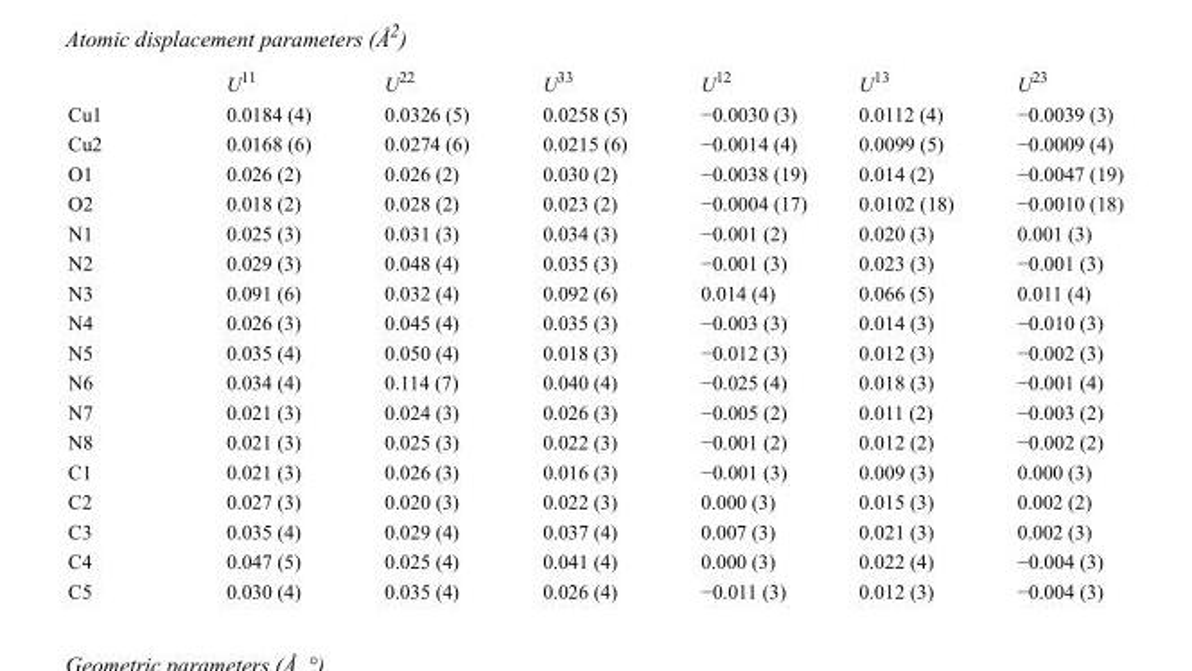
<table><thead><tr><td></td><td>U<sup>11</sup></td><td>U<sup>22</sup></td><td>U<sup>33</sup></td><td>U<sup>12</sup></td><td>U<sup>13</sup></td><td>U<sup>23</sup></td></tr></thead><tbody><tr><td>Cu1</td><td>0.0184 (4)</td><td>0.0326 (5)</td><td>0.0258 (5)</td><td>−0.0030 (3)</td><td>0.0112 (4)</td><td>−0.0039 (3)</td></tr><tr><td>Cu2</td><td>0.0168 (6)</td><td>0.0274 (6)</td><td>0.0215 (6)</td><td>−0.0014 (4)</td><td>0.0099 (5)</td><td>−0.0009 (4)</td></tr><tr><td>O1</td><td>0.026 (2)</td><td>0.026 (2)</td><td>0.030 (2)</td><td>−0.0038 (19)</td><td>0.014 (2)</td><td>−0.0047 (19)</td></tr><tr><td>O2</td><td>0.018 (2)</td><td>0.028 (2)</td><td>0.023 (2)</td><td>−0.0004 (17)</td><td>0.0102 (18)</td><td>−0.0010 (18)</td></tr><tr><td>N1</td><td>0.025 (3)</td><td>0.031 (3)</td><td>0.034 (3)</td><td>−0.001 (2)</td><td>0.020 (3)</td><td>0.001 (3)</td></tr><tr><td>N2</td><td>0.029 (3)</td><td>0.048 (4)</td><td>0.035 (3)</td><td>−0.001 (3)</td><td>0.023 (3)</td><td>−0.001 (3)</td></tr><tr><td>N3</td><td>0.091 (6)</td><td>0.032 (4)</td><td>0.092 (6)</td><td>0.014 (4)</td><td>0.066 (5)</td><td>0.011 (4)</td></tr><tr><td>N4</td><td>0.026 (3)</td><td>0.045 (4)</td><td>0.035 (3)</td><td>−0.003 (3)</td><td>0.014 (3)</td><td>−0.010 (3)</td></tr><tr><td>N5</td><td>0.035 (4)</td><td>0.050 (4)</td><td>0.018 (3)</td><td>−0.012 (3)</td><td>0.012 (3)</td><td>−0.002 (3)</td></tr><tr><td>N6</td><td>0.034 (4)</td><td>0.114 (7)</td><td>0.040 (4)</td><td>−0.025 (4)</td><td>0.018 (3)</td><td>−0.001 (4)</td></tr><tr><td>N7</td><td>0.021 (3)</td><td>0.024 (3)</td><td>0.026 (3)</td><td>−0.005 (2)</td><td>0.011 (2)</td><td>−0.003 (2)</td></tr><tr><td>N8</td><td>0.021 (3)</td><td>0.025 (3)</td><td>0.022 (3)</td><td>−0.001 (2)</td><td>0.012 (2)</td><td>−0.002 (2)</td></tr><tr><td>C1</td><td>0.021 (3)</td><td>0.026 (3)</td><td>0.016 (3)</td><td>−0.001 (3)</td><td>0.009 (3)</td><td>0.000 (3)</td></tr><tr><td>C2</td><td>0.027 (3)</td><td>0.020 (3)</td><td>0.022 (3)</td><td>0.000 (3)</td><td>0.015 (3)</td><td>0.002 (2)</td></tr><tr><td>C3</td><td>0.035 (4)</td><td>0.029 (4)</td><td>0.037 (4)</td><td>0.007 (3)</td><td>0.021 (3)</td><td>0.002 (3)</td></tr><tr><td>C4</td><td>0.047 (5)</td><td>0.025 (4)</td><td>0.041 (4)</td><td>0.000 (3)</td><td>0.022 (4)</td><td>−0.004 (3)</td></tr><tr><td>C5</td><td>0.030 (4)</td><td>0.035 (4)</td><td>0.026 (4)</td><td>−0.011 (3)</td><td>0.012 (3)</td><td>−0.004 (3)</td></tr></tbody></table>